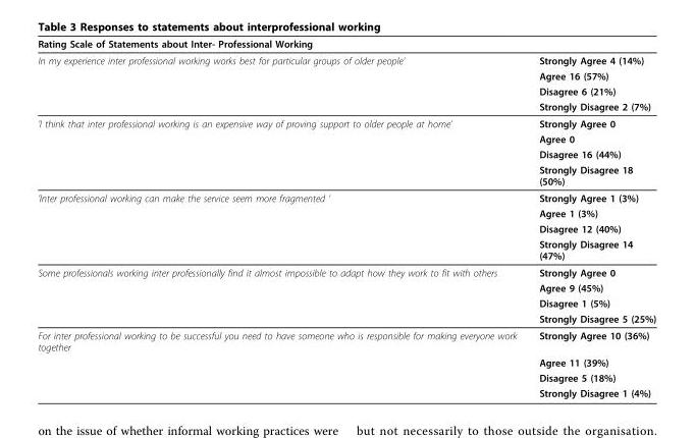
<table><thead><tr><td>Rating Scale of Statements about Inter- Professional Working</td><td></td></tr></thead><tbody><tr><td rowspan="4">In my experience inter professional working works best for particular groups of older people’</td><td>Strongly Agree 4 (14%)</td></tr><tr><td>Agree 16 (57%)</td></tr><tr><td>Disagree 6 (21%)</td></tr><tr><td>Strongly Disagree 2 (7%)</td></tr><tr><td rowspan="4">’I think that inter professional working is an expensive way of proving support to older people at home’</td><td>Strongly Agree 0</td></tr><tr><td>Agree 0</td></tr><tr><td>Disagree 16 (44%)</td></tr><tr><td>Strongly Disagree 18 (50%)</td></tr><tr><td rowspan="4">’Inter professional working can make the service seem more fragmented ‘</td><td>Strongly Agree 1 (3%)</td></tr><tr><td>Agree 1 (3%)</td></tr><tr><td>Disagree 12 (40%)</td></tr><tr><td>Strongly Disagree 14 (47%)</td></tr><tr><td rowspan="4">Some professionals working inter professionally find it almost impossible to adapt how they work to fit with others</td><td>Strongly Agree 0</td></tr><tr><td>Agree 9 (45%)</td></tr><tr><td>Disagree 1 (5%)</td></tr><tr><td>Strongly Disagree 5 (25%)</td></tr><tr><td rowspan="4">For inter professional working to be successful you need to have someone who is responsible for making everyone work together</td><td>Strongly Agree 10 (36%)</td></tr><tr><td>Agree 11 (39%)</td></tr><tr><td>Disagree 5 (18%)</td></tr><tr><td>Strongly Disagree 1 (4%)</td></tr></tbody></table>